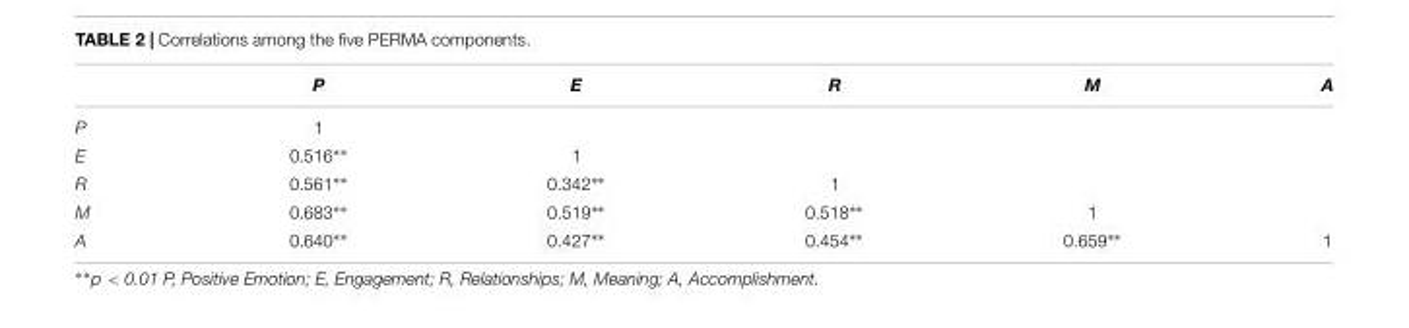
<table><thead><tr><td></td><td>P</td><td>E</td><td>R</td><td>M</td><td>A</td></tr></thead><tbody><tr><td>P</td><td>1</td><td></td><td></td><td></td><td></td></tr><tr><td>E</td><td>0.516∗∗</td><td>1</td><td></td><td></td><td></td></tr><tr><td>R</td><td>0.561∗∗</td><td>0.342∗∗</td><td>1</td><td></td><td></td></tr><tr><td>M</td><td>0.683∗∗</td><td>0.519∗∗</td><td>0.518∗∗</td><td>1</td><td></td></tr><tr><td>A</td><td>0.640∗∗</td><td>0.427∗∗</td><td>0.454∗∗</td><td>0.659∗∗</td><td>1</td></tr></tbody></table>